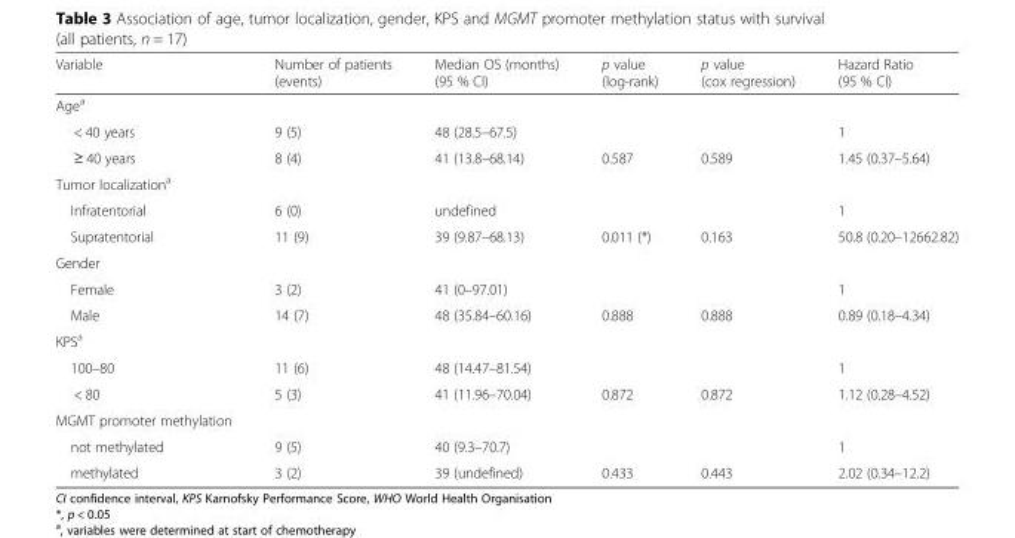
<table><thead><tr><td>Variable</td><td>Number of patients (events)</td><td>Median OS (months) (95 % CI)</td><td>p value (log-rank)</td><td>p value (cox regression)</td><td>Hazard Ratio (95 % CI)</td></tr></thead><tbody><tr><td colspan="6">Age<sup>a</sup></td></tr><tr><td>&lt; 40 years</td><td>9 (5)</td><td>48 (28.5–67.5)</td><td></td><td></td><td>1</td></tr><tr><td>≥ 40 years</td><td>8 (4)</td><td>41 (13.8–68.14)</td><td>0.587</td><td>0.589</td><td>1.45 (0.37–5.64)</td></tr><tr><td colspan="6">Tumor localization<sup>a</sup></td></tr><tr><td>Infratentorial</td><td>6 (0)</td><td>undefined</td><td></td><td></td><td>1</td></tr><tr><td>Supratentorial</td><td>11 (9)</td><td>39 (9.87–68.13)</td><td>0.011 (*)</td><td>0.163</td><td>50.8 (0.20–12662.82)</td></tr><tr><td colspan="6">Gender</td></tr><tr><td>Female</td><td>3 (2)</td><td>41 (0–97.01)</td><td></td><td></td><td>1</td></tr><tr><td>Male</td><td>14 (7)</td><td>48 (35.84–60.16)</td><td>0.888</td><td>0.888</td><td>0.89 (0.18–4.34)</td></tr><tr><td colspan="6">KPS<sup>a</sup></td></tr><tr><td>100–80</td><td>11 (6)</td><td>48 (14.47–81.54)</td><td></td><td></td><td>1</td></tr><tr><td>&lt; 80</td><td>5 (3)</td><td>41 (11.96–70.04)</td><td>0.872</td><td>0.872</td><td>1.12 (0.28–4.52)</td></tr><tr><td colspan="6">MGMT promoter methylation</td></tr><tr><td>not methylated</td><td>9 (5)</td><td>40 (9.3–70.7)</td><td></td><td></td><td>1</td></tr><tr><td>methylated</td><td>3 (2)</td><td>39 (undefined)</td><td>0.433</td><td>0.443</td><td>2.02 (0.34–12.2)</td></tr></tbody></table>